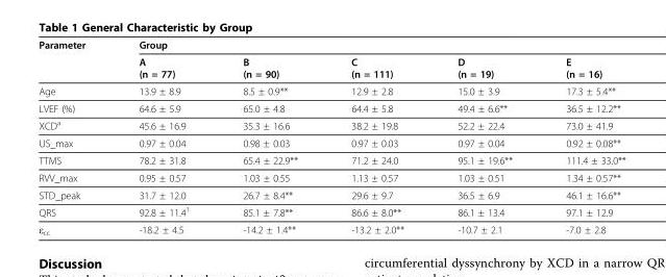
<table><thead><tr><td rowspan="2">Parameter</td><td colspan="5">Group</td></tr><tr><td>A (n = 77)</td><td>B (n = 90)</td><td>C (n = 111)</td><td>D (n = 19)</td><td>E (n = 16)</td></tr></thead><tbody><tr><td>Age</td><td>13.9 ± 8.9</td><td>8.5 ± 0.9**</td><td>12.9 ± 2.8</td><td>15.0 ± 3.9</td><td>17.3 ± 5.4**</td></tr><tr><td>LVEF (%)</td><td>64.6 ± 5.9</td><td>65.0 ± 4.8</td><td>64.4 ± 5.8</td><td>49.4 ± 6.6**</td><td>36.5 ± 12.2**</td></tr><tr><td>XCD<sup>a</sup></td><td>45.6 ± 16.9</td><td>35.3 ± 16.6</td><td>38.2 ± 19.8</td><td>52.2 ± 22.4</td><td>73.0 ± 41.9</td></tr><tr><td>US_max</td><td>0.97 ± 0.04</td><td>0.98 ± 0.03</td><td>0.97 ± 0.03</td><td>0.97 ± 0.04</td><td>0.92 ± 0.08**</td></tr><tr><td>TTMS</td><td>78.2 ± 31.8</td><td>65.4 ± 22.9**</td><td>71.2 ± 24.0</td><td>95.1 ± 19.6**</td><td>111.4 ± 33.0**</td></tr><tr><td>RVV_max</td><td>0.95 ± 0.57</td><td>1.03 ± 0.55</td><td>1.13 ± 0.57</td><td>1.03 ± 0.51</td><td>1.34 ± 0.57**</td></tr><tr><td>STD_peak</td><td>31.7 ± 12.0</td><td>26.7 ± 8.4**</td><td>29.6 ± 9.7</td><td>36.5 ± 6.9</td><td>46.1 ± 16.6**</td></tr><tr><td>QRS</td><td>92.8 ± 11.4<sup>1</sup></td><td>85.1 ± 7.8**</td><td>86.6 ± 8.0**</td><td>86.1 ± 13.4</td><td>97.1 ± 12.9</td></tr><tr><td>ε<sub>cc</sub></td><td>-18.2 ± 4.5</td><td>-14.2 ± 1.4**</td><td>-13.2 ± 2.0**</td><td>-10.7 ± 2.1</td><td>-7.0 ± 2.8</td></tr></tbody></table>